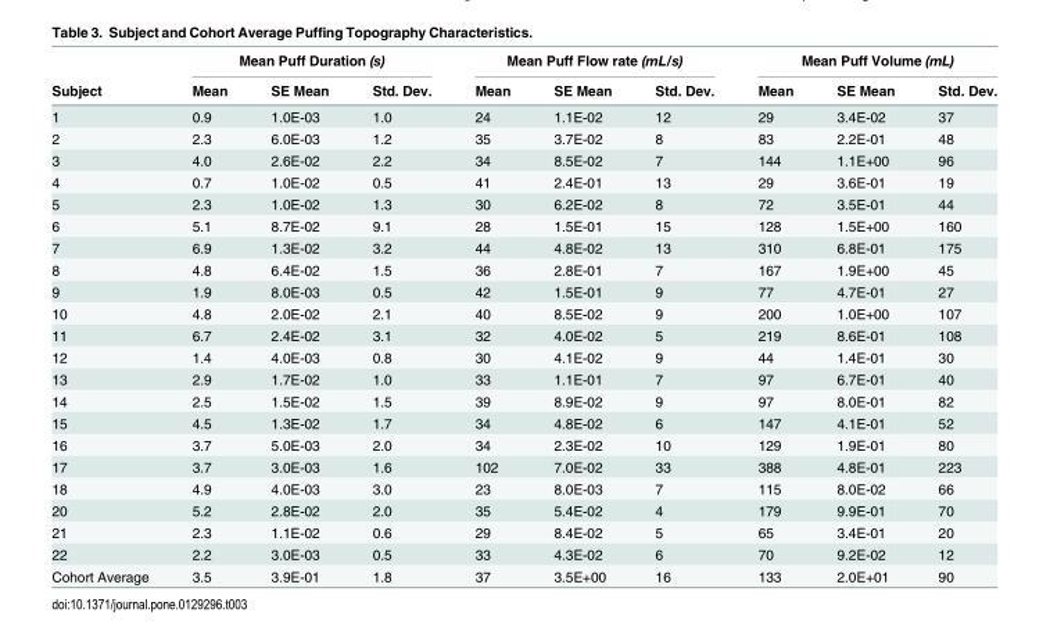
<table><thead><tr><td rowspan="2">Subject</td><td colspan="3">Mean Puff Duration (s)</td><td colspan="3">Mean Puff Flow rate (mL/s)</td><td colspan="3">Mean Puff Volume (mL)</td></tr><tr><td>Mean</td><td>SE Mean</td><td>Std. Dev.</td><td>Mean</td><td>SE Mean</td><td>Std. Dev.</td><td>Mean</td><td>SE Mean</td><td>Std. Dev.</td></tr></thead><tbody><tr><td>1</td><td>0.9</td><td>1.0E-03</td><td>1.0</td><td>24</td><td>1.1E-02</td><td>12</td><td>29</td><td>3.4E-02</td><td>37</td></tr><tr><td>2</td><td>2.3</td><td>6.0E-03</td><td>1.2</td><td>35</td><td>3.7E-02</td><td>8</td><td>83</td><td>2.2E-01</td><td>48</td></tr><tr><td>3</td><td>4.0</td><td>2.6E-02</td><td>2.2</td><td>34</td><td>8.5E-02</td><td>7</td><td>144</td><td>1.1E+00</td><td>96</td></tr><tr><td>4</td><td>0.7</td><td>1.0E-02</td><td>0.5</td><td>41</td><td>2.4E-01</td><td>13</td><td>29</td><td>3.6E-01</td><td>19</td></tr><tr><td>5</td><td>2.3</td><td>1.0E-02</td><td>1.3</td><td>30</td><td>6.2E-02</td><td>8</td><td>72</td><td>3.5E-01</td><td>44</td></tr><tr><td>6</td><td>5.1</td><td>8.7E-02</td><td>9.1</td><td>28</td><td>1.5E-01</td><td>15</td><td>128</td><td>1.5E+00</td><td>160</td></tr><tr><td>7</td><td>6.9</td><td>1.3E-02</td><td>3.2</td><td>44</td><td>4.8E-02</td><td>13</td><td>310</td><td>6.8E-01</td><td>175</td></tr><tr><td>8</td><td>4.8</td><td>6.4E-02</td><td>1.5</td><td>36</td><td>2.8E-01</td><td>7</td><td>167</td><td>1.9E+00</td><td>45</td></tr><tr><td>9</td><td>1.9</td><td>8.0E-03</td><td>0.5</td><td>42</td><td>1.5E-01</td><td>9</td><td>77</td><td>4.7E-01</td><td>27</td></tr><tr><td>10</td><td>4.8</td><td>2.0E-02</td><td>2.1</td><td>40</td><td>8.5E-02</td><td>9</td><td>200</td><td>1.0E+00</td><td>107</td></tr><tr><td>11</td><td>6.7</td><td>2.4E-02</td><td>3.1</td><td>32</td><td>4.0E-02</td><td>5</td><td>219</td><td>8.6E-01</td><td>108</td></tr><tr><td>12</td><td>1.4</td><td>4.0E-03</td><td>0.8</td><td>30</td><td>4.1E-02</td><td>9</td><td>44</td><td>1.4E-01</td><td>30</td></tr><tr><td>13</td><td>2.9</td><td>1.7E-02</td><td>1.0</td><td>33</td><td>1.1E-01</td><td>7</td><td>97</td><td>6.7E-01</td><td>40</td></tr><tr><td>14</td><td>2.5</td><td>1.5E-02</td><td>1.5</td><td>39</td><td>8.9E-02</td><td>9</td><td>97</td><td>8.0E-01</td><td>82</td></tr><tr><td>15</td><td>4.5</td><td>1.3E-02</td><td>1.7</td><td>34</td><td>4.8E-02</td><td>6</td><td>147</td><td>4.1E-01</td><td>52</td></tr><tr><td>16</td><td>3.7</td><td>5.0E-03</td><td>2.0</td><td>34</td><td>2.3E-02</td><td>10</td><td>129</td><td>1.9E-01</td><td>80</td></tr><tr><td>17</td><td>3.7</td><td>3.0E-03</td><td>1.6</td><td>102</td><td>7.0E-02</td><td>33</td><td>388</td><td>4.8E-01</td><td>223</td></tr><tr><td>18</td><td>4.9</td><td>4.0E-03</td><td>3.0</td><td>23</td><td>8.0E-03</td><td>7</td><td>115</td><td>8.0E-02</td><td>66</td></tr><tr><td>20</td><td>5.2</td><td>2.8E-02</td><td>2.0</td><td>35</td><td>5.4E-02</td><td>4</td><td>179</td><td>9.9E-01</td><td>70</td></tr><tr><td>21</td><td>2.3</td><td>1.1E-02</td><td>0.6</td><td>29</td><td>8.4E-02</td><td>5</td><td>65</td><td>3.4E-01</td><td>20</td></tr><tr><td>22</td><td>2.2</td><td>3.0E-03</td><td>0.5</td><td>33</td><td>4.3E-02</td><td>6</td><td>70</td><td>9.2E-02</td><td>12</td></tr><tr><td>Cohort Average</td><td>3.5</td><td>3.9E-01</td><td>1.8</td><td>37</td><td>3.5E+00</td><td>16</td><td>133</td><td>2.0E+01</td><td>90</td></tr></tbody></table>